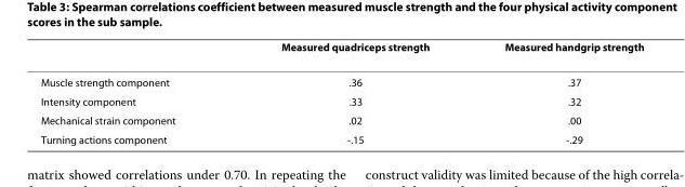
<table><thead><tr><td></td><td>Measured quadriceps strength</td><td>Measured handgrip strength</td></tr></thead><tbody><tr><td>Muscle strength component</td><td>.36</td><td>.37</td></tr><tr><td>Intensity component</td><td>.33</td><td>.32</td></tr><tr><td>Mechanical strain component</td><td>.02</td><td>.00</td></tr><tr><td>Turning actions component</td><td>-.15</td><td>-.29</td></tr></tbody></table>